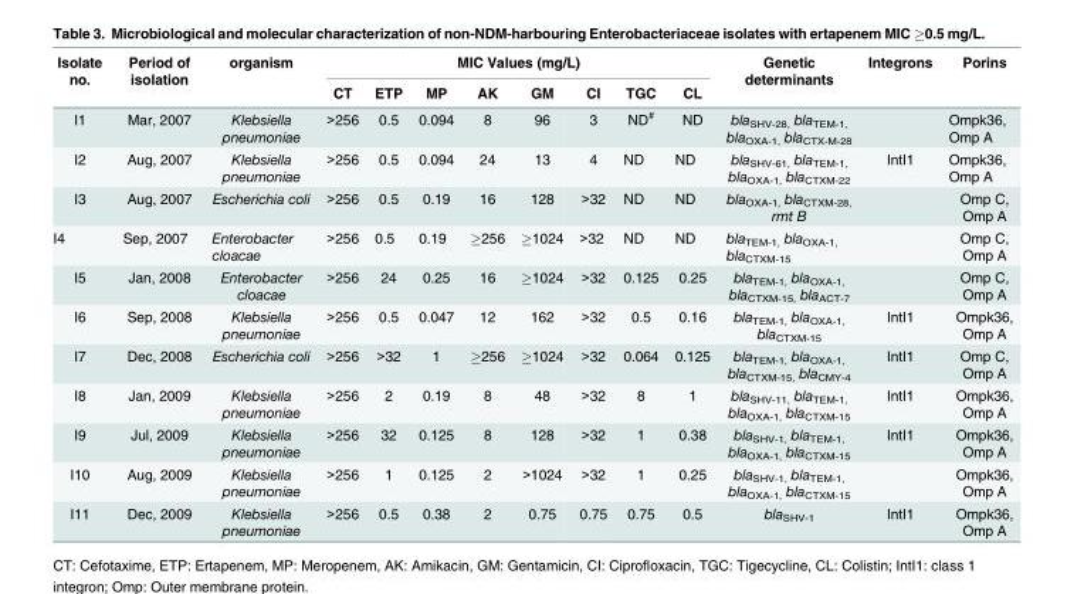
<table><thead><tr><td rowspan="2">Isolate no.</td><td rowspan="2">Period of isolation</td><td rowspan="2">organism</td><td colspan="8">MIC Values (mg/L)</td><td rowspan="2">Genetic determinants</td><td rowspan="2">Integrons</td><td rowspan="2">Porins</td></tr><tr><td>CT</td><td>ETP</td><td>MP</td><td>AK</td><td>GM</td><td>CI</td><td>TGC</td><td>CL</td></tr></thead><tbody><tr><td>I1</td><td>Mar, 2007</td><td>Klebsiella pneumoniae</td><td>&gt;256</td><td>0.5</td><td>0.094</td><td>8</td><td>96</td><td>3</td><td>ND<sup>#</sup></td><td>ND</td><td>bla<sub>SHV-28,</sub> bla<sub>TEM-1,</sub> bla<sub>OXA-1,</sub> bla<sub>CTX-M-28</sub></td><td></td><td>Ompk36, Omp A</td></tr><tr><td>I2</td><td>Aug, 2007</td><td>Klebsiella pneumoniae</td><td>&gt;256</td><td>0.5</td><td>0.094</td><td>24</td><td>13</td><td>4</td><td>ND</td><td>ND</td><td>bla<sub>SHV-61,</sub> bla<sub>TEM-1,</sub> bla<sub>OXA-1,</sub> bla<sub>CTXM-22</sub></td><td>IntI1</td><td>Ompk36, Omp A</td></tr><tr><td>I3</td><td>Aug, 2007</td><td>Escherichia coli</td><td>&gt;256</td><td>0.5</td><td>0.19</td><td>16</td><td>128</td><td>&gt;32</td><td>ND</td><td>ND</td><td>bla<sub>OXA-1,</sub> bla<sub>CTXM-28,</sub> rmt B</td><td></td><td>Omp C, Omp A</td></tr><tr><td>I4</td><td>Sep, 2007</td><td>Enterobacter cloacae</td><td>&gt;256</td><td>0.5</td><td>0.19</td><td>≥256</td><td>≥1024</td><td>&gt;32</td><td>ND</td><td>ND</td><td>bla<sub>TEM-1,</sub> bla<sub>OXA-1,</sub> bla<sub>CTXM-15</sub></td><td></td><td>Omp C, Omp A</td></tr><tr><td>I5</td><td>Jan, 2008</td><td>Enterobacter cloacae</td><td>&gt;256</td><td>24</td><td>0.25</td><td>16</td><td>≥1024</td><td>&gt;32</td><td>0.125</td><td>0.25</td><td>bla<sub>TEM-1,</sub> bla<sub>OXA-1,</sub> bla<sub>CTXM-15,</sub> bla<sub>ACT-7</sub></td><td></td><td>Omp C, Omp A</td></tr><tr><td>I6</td><td>Sep, 2008</td><td>Klebsiella pneumoniae</td><td>&gt;256</td><td>0.5</td><td>0.047</td><td>12</td><td>162</td><td>&gt;32</td><td>0.5</td><td>0.16</td><td>bla<sub>TEM-1,</sub> bla<sub>OXA-1,</sub> bla<sub>CTXM-15</sub></td><td>IntI1</td><td>Ompk36, Omp A</td></tr><tr><td>I7</td><td>Dec, 2008</td><td>Escherichia coli</td><td>&gt;256</td><td>&gt;32</td><td>1</td><td>≥256</td><td>≥1024</td><td>&gt;32</td><td>0.064</td><td>0.125</td><td>bla<sub>TEM-1,</sub> bla<sub>OXA-1,</sub> bla<sub>CTXM-15,</sub> bla<sub>CMY-4</sub></td><td>IntI1</td><td>Omp C, Omp A</td></tr><tr><td>I8</td><td>Jan, 2009</td><td>Klebsiella pneumoniae</td><td>&gt;256</td><td>2</td><td>0.19</td><td>8</td><td>48</td><td>&gt;32</td><td>8</td><td>1</td><td>bla<sub>SHV-11,</sub> bla<sub>TEM-1,</sub> bla<sub>OXA-1,</sub> bla<sub>CTXM-15</sub></td><td>IntI1</td><td>Ompk36, Omp A</td></tr><tr><td>I9</td><td>Jul, 2009</td><td>Klebsiella pneumoniae</td><td>&gt;256</td><td>32</td><td>0.125</td><td>8</td><td>128</td><td>&gt;32</td><td>1</td><td>0.38</td><td>bla<sub>SHV-1,</sub> bla<sub>TEM-1,</sub> bla<sub>OXA-1,</sub> bla<sub>CTXM-15</sub></td><td>IntI1</td><td>Ompk36, Omp A</td></tr><tr><td>I10</td><td>Aug, 2009</td><td>Klebsiella pneumoniae</td><td>&gt;256</td><td>1</td><td>0.125</td><td>2</td><td>&gt;1024</td><td>&gt;32</td><td>1</td><td>0.25</td><td>bla<sub>SHV-1,</sub> bla<sub>TEM-1,</sub> bla<sub>OXA-1,</sub> bla<sub>CTXM-15</sub></td><td></td><td>Ompk36, Omp A</td></tr><tr><td>I11</td><td>Dec, 2009</td><td>Klebsiella pneumoniae</td><td>&gt;256</td><td>0.5</td><td>0.38</td><td>2</td><td>0.75</td><td>0.75</td><td>0.75</td><td>0.5</td><td>bla<sub>SHV-1</sub></td><td>IntI1</td><td>Ompk36, Omp A</td></tr></tbody></table>